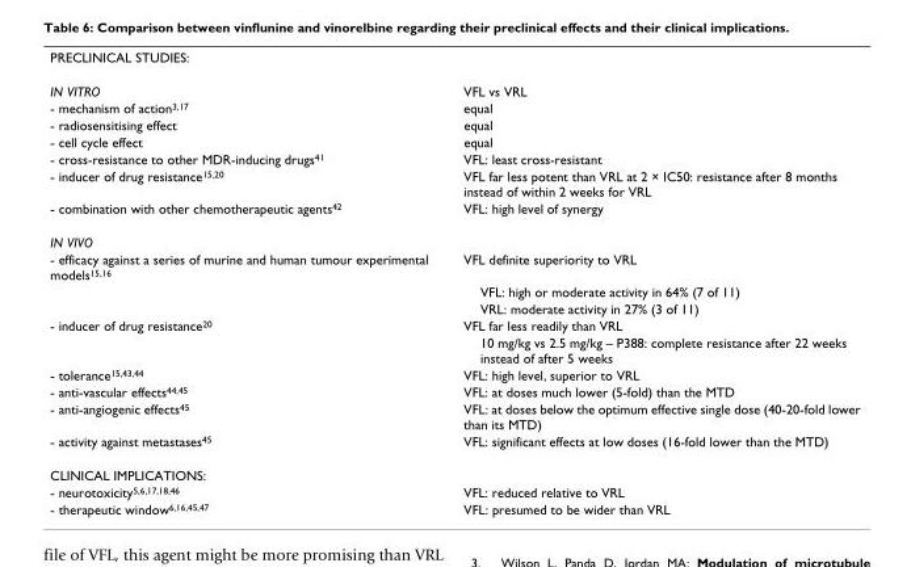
<table><tbody><tr><td colspan="2">PRECLINICAL STUDIES:</td></tr><tr><td>IN VITRO</td><td>VFL vs VRL</td></tr><tr><td>- mechanism of action<sup>3,17</sup></td><td>equal</td></tr><tr><td>- radiosensitising effect</td><td>equal</td></tr><tr><td>- cell cycle effect</td><td>equal</td></tr><tr><td>- cross-resistance to other MDR-inducing drugs<sup>41</sup></td><td>VFL: least cross-resistant</td></tr><tr><td>- inducer of drug resistance<sup>15,20</sup></td><td>VFL far less potent than VRL at 2 × IC50: resistance after 8 months instead of within 2 weeks for VRL</td></tr><tr><td>- combination with other chemotherapeutic agents<sup>42</sup></td><td>VFL: high level of synergy</td></tr><tr><td colspan="2">IN VIVO</td></tr><tr><td rowspan="3">- efficacy against a series of murine and human tumour experimental models<sup>15,16</sup></td><td>VFL definite superiority to VRL</td></tr><tr><td>VFL: high or moderate activity in 64% (7 of 11)</td></tr><tr><td>VRL: moderate activity in 27% (3 of 11)</td></tr><tr><td rowspan="2">- inducer of drug resistance<sup>20</sup></td><td>VFL far less readily than VRL</td></tr><tr><td>10 mg/kg vs 2.5 mg/kg – P388: complete resistance after 22 weeks instead of after 5 weeks</td></tr><tr><td>- tolerance<sup>15,43,44</sup></td><td>VFL: high level, superior to VRL</td></tr><tr><td>- anti-vascular effects<sup>44,45</sup></td><td>VFL: at doses much lower (5-fold) than the MTD</td></tr><tr><td>- anti-angiogenic effects<sup>45</sup></td><td>VFL: at doses below the optimum effective single dose (40-20-fold lower than its MTD)</td></tr><tr><td>- activity against metastases<sup>45</sup></td><td>VFL: significant effects at low doses (16-fold lower than the MTD)</td></tr><tr><td colspan="2">CLINICAL IMPLICATIONS:</td></tr><tr><td>- neurotoxicity<sup>5,6,17,18,46</sup></td><td>VFL: reduced relative to VRL</td></tr><tr><td>- therapeutic window<sup>6,16,45,47</sup></td><td>VFL: presumed to be wider than VRL</td></tr></tbody></table>